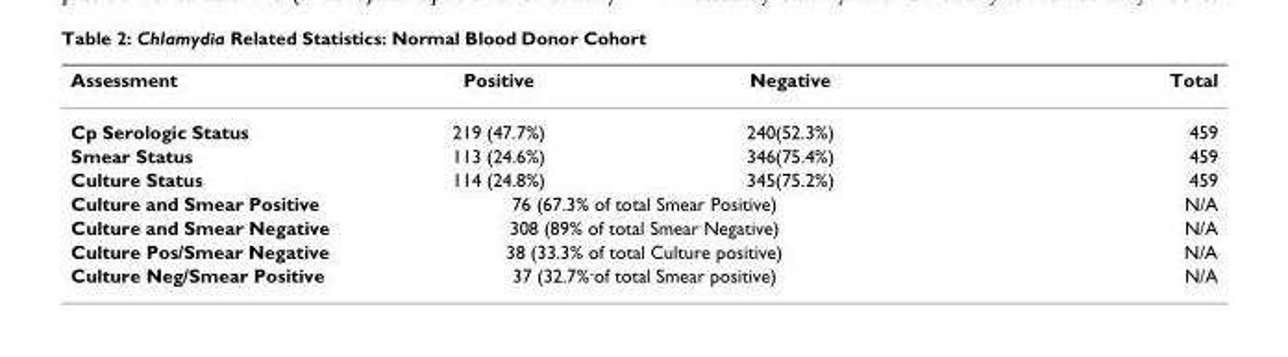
<table><thead><tr><td>Assessment</td><td>Positive</td><td>Negative</td><td>Total</td></tr></thead><tbody><tr><td>Cp Serologic Status</td><td>219 (47.7%)</td><td>240(52.3%)</td><td>459</td></tr><tr><td>Smear Status</td><td>113 (24.6%)</td><td>346(75.4%)</td><td>459</td></tr><tr><td>Culture Status</td><td>114 (24.8%)</td><td>345(75.2%)</td><td>459</td></tr><tr><td>Culture and Smear Positive</td><td colspan="2">76 (67.3% of total Smear Positive)</td><td>N/A</td></tr><tr><td>Culture and Smear Negative</td><td colspan="2">308 (89% of total Smear Negative)</td><td>N/A</td></tr><tr><td>Culture Pos/Smear Negative</td><td colspan="2">38 (33.3% of total Culture positive)</td><td>N/A</td></tr><tr><td>Culture Neg/Smear Positive</td><td colspan="2">37 (32.7%<sup>-</sup>of total Smear positive)</td><td>N/A</td></tr></tbody></table>